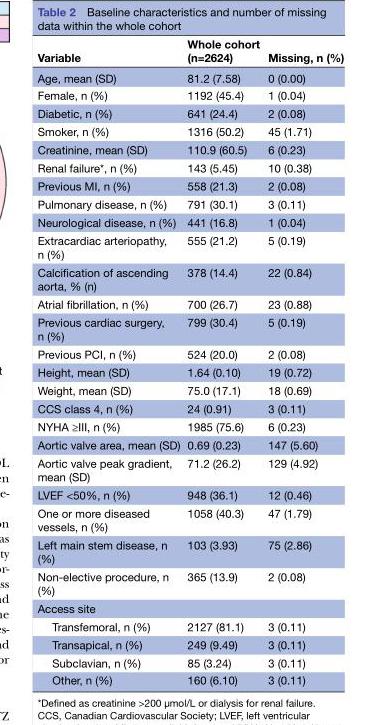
<table><thead><tr><td>Variable</td><td>Whole cohort (n=2624)</td><td>Missing, n (%)</td></tr></thead><tbody><tr><td>Age, mean (SD)</td><td>81.2 (7.58)</td><td>0 (0.00)</td></tr><tr><td>Female, n (%)</td><td>1192 (45.4)</td><td>1 (0.04)</td></tr><tr><td>Diabetic, n (%)</td><td>641 (24.4)</td><td>2 (0.08)</td></tr><tr><td>Smoker, n (%)</td><td>1316 (50.2)</td><td>45 (1.71)</td></tr><tr><td>Creatinine, mean (SD)</td><td>110.9 (60.5)</td><td>6 (0.23)</td></tr><tr><td>Renal failure*, n (%)</td><td>143 (5.45)</td><td>10 (0.38)</td></tr><tr><td>Previous MI, n (%)</td><td>558 (21.3)</td><td>2 (0.08)</td></tr><tr><td>Pulmonary disease, n (%)</td><td>791 (30.1)</td><td>3 (0.11)</td></tr><tr><td>Neurological disease, n (%)</td><td>441 (16.8)</td><td>1 (0.04)</td></tr><tr><td>Extracardiac arteriopathy, n (%)</td><td>555 (21.2)</td><td>5 (0.19)</td></tr><tr><td>Calcification of ascending aorta, % (n)</td><td>378 (14.4)</td><td>22 (0.84)</td></tr><tr><td>Atrial fibrillation, n (%)</td><td>700 (26.7)</td><td>23 (0.88)</td></tr><tr><td>Previous cardiac surgery, n (%)</td><td>799 (30.4)</td><td>5 (0.19)</td></tr><tr><td>Previous PCI, n (%)</td><td>524 (20.0)</td><td>2 (0.08)</td></tr><tr><td>Height, mean (SD)</td><td>1.64 (0.10)</td><td>19 (0.72)</td></tr><tr><td>Weight, mean (SD)</td><td>75.0 (17.1)</td><td>18 (0.69)</td></tr><tr><td>CCS class 4, n (%)</td><td>24 (0.91)</td><td>3 (0.11)</td></tr><tr><td>NYHA ≥III, n (%)</td><td>1985 (75.6)</td><td>6 (0.23)</td></tr><tr><td>Aortic valve area, mean (SD)</td><td>0.69 (0.23)</td><td>147 (5.60)</td></tr><tr><td>Aortic valve peak gradient, mean (SD)</td><td>71.2 (26.2)</td><td>129 (4.92)</td></tr><tr><td>LVEF &lt;50%, n (%)</td><td>948 (36.1)</td><td>12 (0.46)</td></tr><tr><td>One or more diseased vessels, n (%)</td><td>1058 (40.3)</td><td>47 (1.79)</td></tr><tr><td>Left main stem disease, n (%)</td><td>103 (3.93)</td><td>75 (2.86)</td></tr><tr><td>Non-elective procedure, n (%)</td><td>365 (13.9)</td><td>2 (0.08)</td></tr><tr><td colspan="3">Access site</td></tr><tr><td>Transfemoral, n (%)</td><td>2127 (81.1)</td><td>3 (0.11)</td></tr><tr><td>Transapical, n (%)</td><td>249 (9.49)</td><td>3 (0.11)</td></tr><tr><td>Subclavian, n (%)</td><td>85 (3.24)</td><td>3 (0.11)</td></tr><tr><td>Other, n (%)</td><td>160 (6.10)</td><td>3 (0.11)</td></tr></tbody></table>